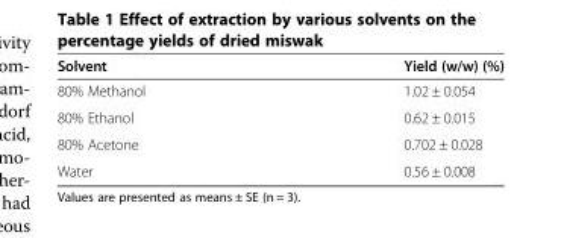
<table><thead><tr><td>Solvent</td><td>Yield (w/w) (%)</td></tr></thead><tbody><tr><td>80% Methanol</td><td>1.02 ± 0.054</td></tr><tr><td>80% Ethanol</td><td>0.62 ± 0.015</td></tr><tr><td>80% Acetone</td><td>0.702 ± 0.028</td></tr><tr><td>Water</td><td>0.56 ± 0.008</td></tr></tbody></table>